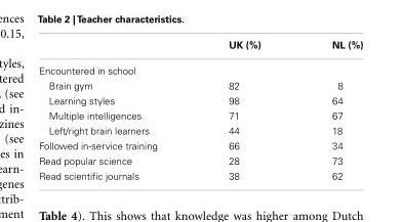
<table><thead><tr><td></td><td>UK (%)</td><td>NL (%)</td></tr></thead><tbody><tr><td colspan="3">Encountered in school</td></tr><tr><td>Brain gym</td><td>82</td><td>8</td></tr><tr><td>Learning styles</td><td>98</td><td>64</td></tr><tr><td>Multiple intelligences</td><td>71</td><td>67</td></tr><tr><td>Left/right brain learners</td><td>44</td><td>18</td></tr><tr><td>Followed in-service training</td><td>66</td><td>34</td></tr><tr><td>Read popular science</td><td>28</td><td>73</td></tr><tr><td>Read scientific journals</td><td>38</td><td>62</td></tr></tbody></table>